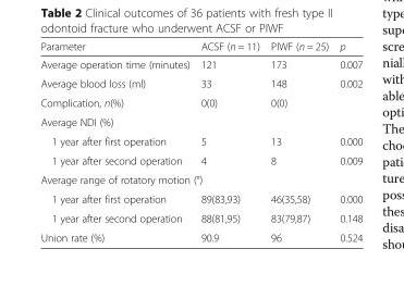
<table><thead><tr><td>Parameter</td><td>ACSF (n = 11)</td><td>PIWF (n = 25)</td><td>p</td></tr></thead><tbody><tr><td>Average operation time (minutes)</td><td>121</td><td>173</td><td>0.007</td></tr><tr><td>Average blood loss (ml)</td><td>33</td><td>148</td><td>0.002</td></tr><tr><td>Complication, n(%)</td><td>0(0)</td><td>0(0)</td><td></td></tr><tr><td colspan="4">Average NDI (%)</td></tr><tr><td>1 year after first operation</td><td>5</td><td>13</td><td>0.000</td></tr><tr><td>1 year after second operation</td><td>4</td><td>8</td><td>0.009</td></tr><tr><td colspan="4">Average range of rotatory motion (°)</td></tr><tr><td>1 year after first operation</td><td>89(83,93)</td><td>46(35,58)</td><td>0.000</td></tr><tr><td>1 year after second operation</td><td>88(81,95)</td><td>83(79,87)</td><td>0.148</td></tr><tr><td>Union rate (%)</td><td>90.9</td><td>96</td><td>0.524</td></tr></tbody></table>